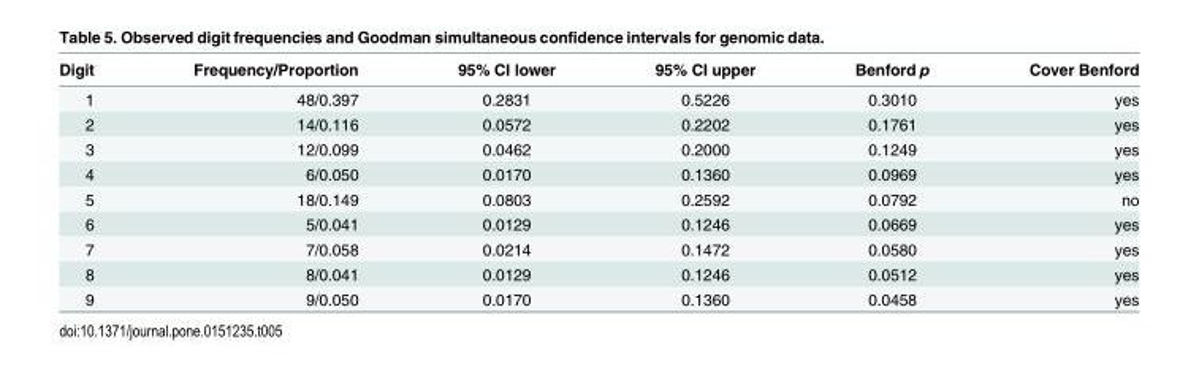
<table><thead><tr><td>Digit</td><td>Frequency/Proportion</td><td>95% CI lower</td><td>95% CI upper</td><td>Benford p</td><td>Cover Benford</td></tr></thead><tbody><tr><td>1</td><td>48/0.397</td><td>0.2831</td><td>0.5226</td><td>0.3010</td><td>yes</td></tr><tr><td>2</td><td>14/0.116</td><td>0.0572</td><td>0.2202</td><td>0.1761</td><td>yes</td></tr><tr><td>3</td><td>12/0.099</td><td>0.0462</td><td>0.2000</td><td>0.1249</td><td>yes</td></tr><tr><td>4</td><td>6/0.050</td><td>0.0170</td><td>0.1360</td><td>0.0969</td><td>yes</td></tr><tr><td>5</td><td>18/0.149</td><td>0.0803</td><td>0.2592</td><td>0.0792</td><td>no</td></tr><tr><td>6</td><td>5/0.041</td><td>0.0129</td><td>0.1246</td><td>0.0669</td><td>yes</td></tr><tr><td>7</td><td>7/0.058</td><td>0.0214</td><td>0.1472</td><td>0.0580</td><td>yes</td></tr><tr><td>8</td><td>8/0.041</td><td>0.0129</td><td>0.1246</td><td>0.0512</td><td>yes</td></tr><tr><td>9</td><td>9/0.050</td><td>0.0170</td><td>0.1360</td><td>0.0458</td><td>yes</td></tr></tbody></table>